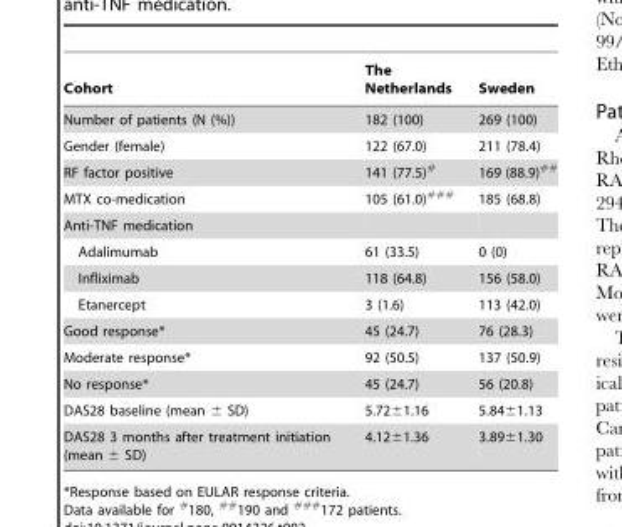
<table><thead><tr><td>Cohort</td><td>The Netherlands</td><td>Sweden</td></tr></thead><tbody><tr><td>Number of patients (N (%))</td><td>182 (100)</td><td>269 (100)</td></tr><tr><td>Gender (female)</td><td>122 (67.0)</td><td>211 (78.4)</td></tr><tr><td>RF factor positive</td><td>141 (77.5)#</td><td>169 (88.9)##</td></tr><tr><td>MTX co-medication</td><td>105 (61.0)###</td><td>185 (68.8)</td></tr><tr><td colspan="3">Anti-TNF medication</td></tr><tr><td>Adalimumab</td><td>61 (33.5)</td><td>0 (0)</td></tr><tr><td>Infliximab</td><td>118 (64.8)</td><td>156 (58.0)</td></tr><tr><td>Etanercept</td><td>3 (1.6)</td><td>113 (42.0)</td></tr><tr><td>Good response*</td><td>45 (24.7)</td><td>76 (28.3)</td></tr><tr><td>Moderate response*</td><td>92 (50.5)</td><td>137 (50.9)</td></tr><tr><td>No response*</td><td>45 (24.7)</td><td>56 (20.8)</td></tr><tr><td>DAS28 baseline (mean ± SD)</td><td>5.72±1.16</td><td>5.84±1.13</td></tr><tr><td>DAS28 3 months after treatment initiation (mean ± SD)</td><td>4.12±1.36</td><td>3.89±1.30</td></tr></tbody></table>